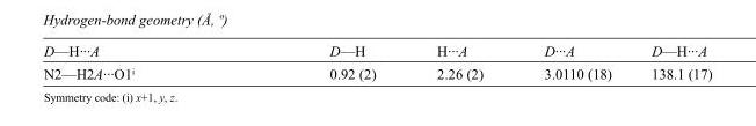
<table><tbody><tr><td>D—H···A</td><td>D—H</td><td>H···A</td><td>D···A</td><td>D—H···A</td></tr><tr><td>N2—H2A···O1<sup>i</sup></td><td>0.92 (2)</td><td>2.26 (2)</td><td>3.0110 (18)</td><td>138.1 (17)</td></tr></tbody></table>